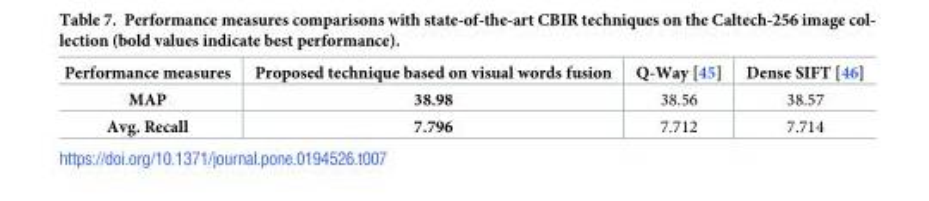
<table><thead><tr><td>Performance measures</td><td>Proposed technique based on visual words fusion</td><td>Q-Way [45]</td><td>Dense SIFT [46]</td></tr></thead><tbody><tr><td>MAP</td><td>38.98</td><td>38.56</td><td>38.57</td></tr><tr><td>Avg. Recall</td><td>7.796</td><td>7.712</td><td>7.714</td></tr></tbody></table>